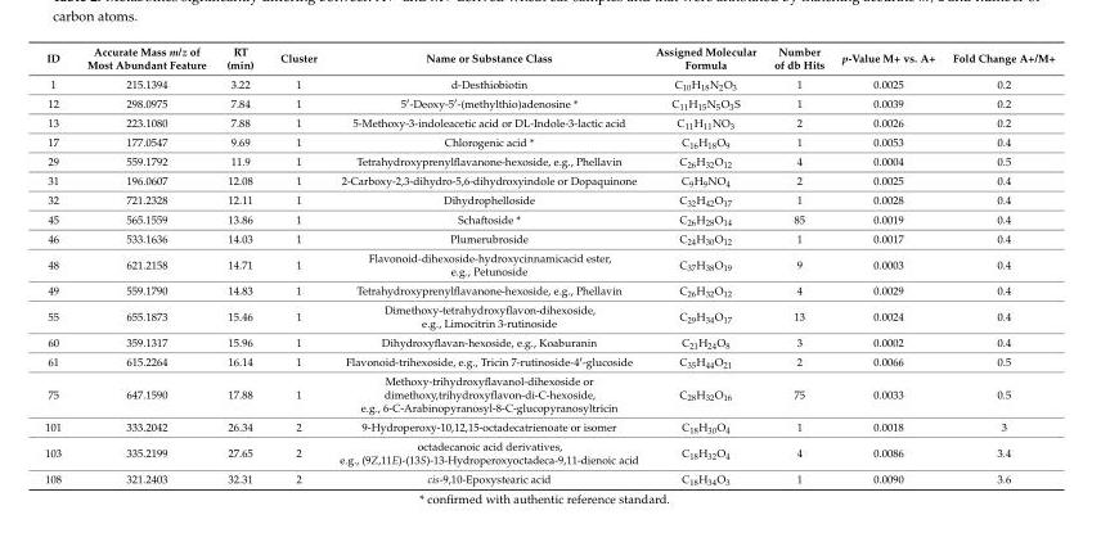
<table><thead><tr><td>ID</td><td>Accurate Mass m/z of Most Abundant Feature</td><td>RT (min)</td><td>Cluster</td><td>Name or Substance Class</td><td>Assigned Molecular Formula</td><td>Number of db Hits</td><td>p-Value M+ vs. A+</td><td>Fold Change A+/M+</td></tr></thead><tbody><tr><td>1</td><td>215.1394</td><td>3.22</td><td>1</td><td>d-Desthiobiotin</td><td>C<sub>10</sub>H<sub>18</sub>N<sub>2</sub>O<sub>3</sub></td><td>1</td><td>0.0025</td><td>0.2</td></tr><tr><td>12</td><td>298.0975</td><td>7.84</td><td>1</td><td>5′-Deoxy-5′-(methylthio)adenosine *</td><td>C<sub>11</sub>H<sub>15</sub>N<sub>5</sub>O<sub>3</sub>S</td><td>1</td><td>0.0039</td><td>0.2</td></tr><tr><td>13</td><td>223.1080</td><td>7.88</td><td>1</td><td>5-Methoxy-3-indoleacetic acid or DL-Indole-3-lactic acid</td><td>C<sub>11</sub>H<sub>11</sub>NO<sub>3</sub></td><td>2</td><td>0.0026</td><td>0.2</td></tr><tr><td>17</td><td>177.0547</td><td>9.69</td><td>1</td><td>Chlorogenic acid *</td><td>C<sub>16</sub>H<sub>18</sub>O<sub>9</sub></td><td>1</td><td>0.0053</td><td>0.4</td></tr><tr><td>29</td><td>559.1792</td><td>11.9</td><td>1</td><td>Tetrahydroxyprenylflavanone-hexoside, e.g., Phellavin</td><td>C<sub>26</sub>H<sub>32</sub>O<sub>12</sub></td><td>4</td><td>0.0004</td><td>0.5</td></tr><tr><td>31</td><td>196.0607</td><td>12.08</td><td>1</td><td>2-Carboxy-2,3-dihydro-5,6-dihydroxyindole or Dopaquinone</td><td>C<sub>9</sub>H<sub>9</sub>NO<sub>4</sub></td><td>2</td><td>0.0025</td><td>0.4</td></tr><tr><td>32</td><td>721.2328</td><td>12.11</td><td>1</td><td>Dihydrophelloside</td><td>C<sub>32</sub>H<sub>42</sub>O<sub>17</sub></td><td>1</td><td>0.0028</td><td>0.4</td></tr><tr><td>45</td><td>565.1559</td><td>13.86</td><td>1</td><td>Schaftoside *</td><td>C<sub>26</sub>H<sub>28</sub>O<sub>14</sub></td><td>85</td><td>0.0019</td><td>0.4</td></tr><tr><td>46</td><td>533.1636</td><td>14.03</td><td>1</td><td>Plumerubroside</td><td>C<sub>24</sub>H<sub>30</sub>O<sub>12</sub></td><td>1</td><td>0.0017</td><td>0.4</td></tr><tr><td>48</td><td>621.2158</td><td>14.71</td><td>1</td><td>Flavonoid-dihexoside-hydroxycinnamicacid ester, e.g., Petunoside</td><td>C<sub>37</sub>H<sub>38</sub>O<sub>19</sub></td><td>9</td><td>0.0003</td><td>0.4</td></tr><tr><td>49</td><td>559.1790</td><td>14.83</td><td>1</td><td>Tetrahydroxyprenylflavanone-hexoside, e.g., Phellavin</td><td>C<sub>26</sub>H<sub>32</sub>O<sub>12</sub></td><td>4</td><td>0.0029</td><td>0.4</td></tr><tr><td>55</td><td>655.1873</td><td>15.46</td><td>1</td><td>Dimethoxy-tetrahydroxyflavon-dihexoside, e.g., Limocitrin 3-rutinoside</td><td>C<sub>29</sub>H<sub>34</sub>O<sub>17</sub></td><td>13</td><td>0.0024</td><td>0.4</td></tr><tr><td>60</td><td>359.1317</td><td>15.96</td><td>1</td><td>Dihydroxyflavan-hexoside, e.g., Koaburanin</td><td>C<sub>21</sub>H<sub>24</sub>O<sub>8</sub></td><td>3</td><td>0.0002</td><td>0.4</td></tr><tr><td>61</td><td>615.2264</td><td>16.14</td><td>1</td><td>Flavonoid-trihexoside, e.g., Tricin 7-rutinoside-4′-glucoside</td><td>C<sub>35</sub>H<sub>44</sub>O<sub>21</sub></td><td>2</td><td>0.0066</td><td>0.5</td></tr><tr><td>75</td><td>647.1590</td><td>17.88</td><td>1</td><td>Methoxy-trihydroxyflavanol-dihexoside or dimethoxy,trihydroxyflavon-di-C-hexoside, e.g., 6-C-Arabinopyranosyl-8-C-glucopyranosyltricin</td><td>C<sub>28</sub>H<sub>32</sub>O<sub>16</sub></td><td>75</td><td>0.0033</td><td>0.5</td></tr><tr><td>101</td><td>333.2042</td><td>26.34</td><td>2</td><td>9-Hydroperoxy-10,12,15-octadecatrienoate or isomer</td><td>C<sub>18</sub>H<sub>30</sub>O<sub>4</sub></td><td>1</td><td>0.0018</td><td>3</td></tr><tr><td>103</td><td>335.2199</td><td>27.65</td><td>2</td><td>octadecanoic acid derivatives, e.g., (9Z,11E)-(13S)-13-Hydroperoxyoctadeca-9,11-dienoic acid</td><td>C<sub>18</sub>H<sub>32</sub>O<sub>4</sub></td><td>4</td><td>0.0086</td><td>3.4</td></tr><tr><td>108</td><td>321.2403</td><td>32.31</td><td>2</td><td>cis-9,10-Epoxystearic acid</td><td>C<sub>18</sub>H<sub>34</sub>O<sub>3</sub></td><td>1</td><td>0.0090</td><td>3.6</td></tr></tbody></table>